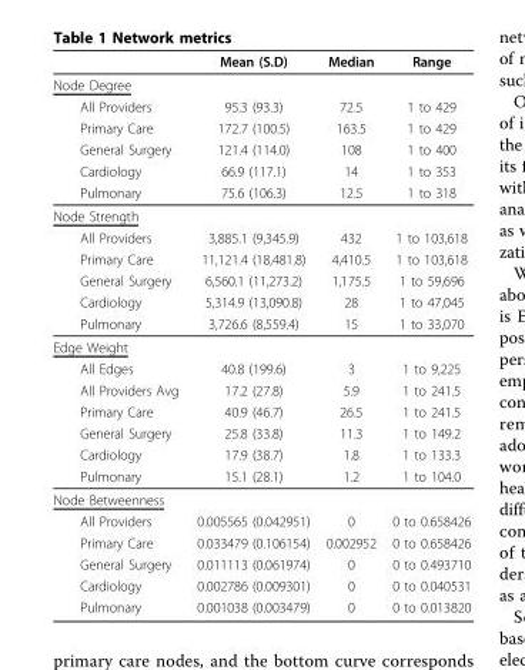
<table><thead><tr><td></td><td>Mean (S.D)</td><td>Median</td><td>Range</td></tr></thead><tbody><tr><td colspan="4">Node Degree</td></tr><tr><td>All Providers</td><td>95.3 (93.3)</td><td>72.5</td><td>1 to 429</td></tr><tr><td>Primary Care</td><td>172.7 (100.5)</td><td>163.5</td><td>1 to 429</td></tr><tr><td>General Surgery</td><td>121.4 (114.0)</td><td>108</td><td>1 to 400</td></tr><tr><td>Cardiology</td><td>66.9 (117.1)</td><td>14</td><td>1 to 353</td></tr><tr><td>Pulmonary</td><td>75.6 (106.3)</td><td>12.5</td><td>1 to 318</td></tr><tr><td colspan="4">Node Strength</td></tr><tr><td>All Providers</td><td>3,885.1 (9,345.9)</td><td>432</td><td>1 to 103,618</td></tr><tr><td>Primary Care</td><td>11,121.4 (18,481.8)</td><td>4,410.5</td><td>1 to 103,618</td></tr><tr><td>General Surgery</td><td>6,560.1 (11,273.2)</td><td>1,175.5</td><td>1 to 59,696</td></tr><tr><td>Cardiology</td><td>5,314.9 (13,090.8)</td><td>28</td><td>1 to 47,045</td></tr><tr><td>Pulmonary</td><td>3,726.6 (8,559.4)</td><td>15</td><td>1 to 33,070</td></tr><tr><td colspan="4">Edge Weight</td></tr><tr><td>All Edges</td><td>40.8 (199.6)</td><td>3</td><td>1 to 9,225</td></tr><tr><td>All Providers Avg</td><td>17.2 (27.8)</td><td>5.9</td><td>1 to 241.5</td></tr><tr><td>Primary Care</td><td>40.9 (46.7)</td><td>26.5</td><td>1 to 241.5</td></tr><tr><td>General Surgery</td><td>25.8 (33.8)</td><td>11.3</td><td>1 to 149.2</td></tr><tr><td>Cardiology</td><td>17.9 (38.7)</td><td>1.8</td><td>1 to 133.3</td></tr><tr><td>Pulmonary</td><td>15.1 (28.1)</td><td>1.2</td><td>1 to 104.0</td></tr><tr><td colspan="4">Node Betweenness</td></tr><tr><td>All Providers</td><td>0.005565 (0.042951)</td><td>0</td><td>0 to 0.658426</td></tr><tr><td>Primary Care</td><td>0.033479 (0.106154)</td><td>0.002952</td><td>0 to 0.658426</td></tr><tr><td>General Surgery</td><td>0.011113 (0.061974)</td><td>0</td><td>0 to 0.493710</td></tr><tr><td>Cardiology</td><td>0.002786 (0.009301)</td><td>0</td><td>0 to 0.040531</td></tr><tr><td>Pulmonary</td><td>0.001038 (0.003479)</td><td>0</td><td>0 to 0.013820</td></tr></tbody></table>